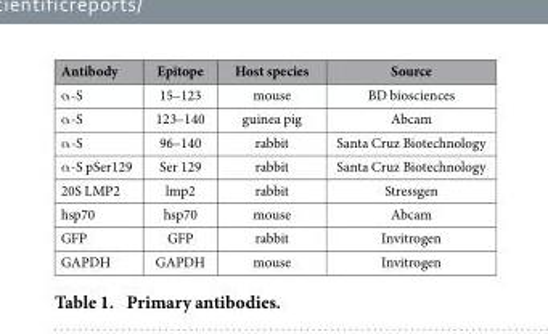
<table><thead><tr><td>Antibody</td><td>Epitope</td><td>Host species</td><td>Source</td></tr></thead><tbody><tr><td>α -S</td><td>15–123</td><td>mouse</td><td>BD biosciences</td></tr><tr><td>α -S</td><td>123–140</td><td>guinea pig</td><td>Abcam</td></tr><tr><td>α -S</td><td>96–140</td><td>rabbit</td><td>Santa Cruz Biotechnology</td></tr><tr><td>α -S pSer129</td><td>Ser 129</td><td>rabbit</td><td>Santa Cruz Biotechnology</td></tr><tr><td>20S LMP2</td><td>lmp2</td><td>rabbit</td><td>Stressgen</td></tr><tr><td>hsp70</td><td>hsp70</td><td>mouse</td><td>Abcam</td></tr><tr><td>GFP</td><td>GFP</td><td>rabbit</td><td>Invitrogen</td></tr><tr><td>GAPDH</td><td>GAPDH</td><td>mouse</td><td>Invitrogen</td></tr></tbody></table>